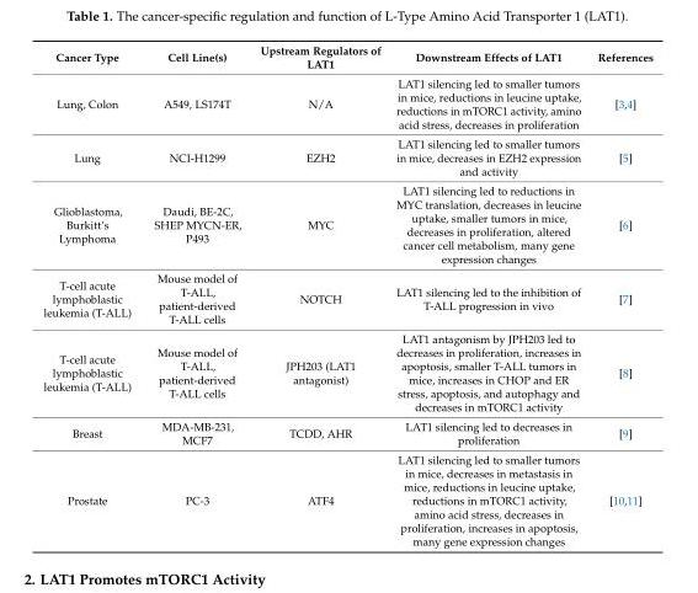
<table><thead><tr><td>Cancer Type</td><td>Cell Line(s)</td><td>Upstream Regulators of LAT1</td><td>Downstream Effects of LAT1</td><td>References</td></tr></thead><tbody><tr><td>Lung, Colon</td><td>A549, LS174T</td><td>N/A</td><td>LAT1 silencing led to smaller tumors in mice, reductions in leucine uptake, reductions in mTORC1 activity, amino acid stress, decreases in proliferation</td><td>[3,4]</td></tr><tr><td>Lung</td><td>NCI-H1299</td><td>EZH2</td><td>LAT1 silencing led to smaller tumors in mice, decreases in EZH2 expression and activity</td><td>[5]</td></tr><tr><td>Glioblastoma, Burkitt’s Lymphoma</td><td>Daudi, BE-2C, SHEP MYCN-ER, P493</td><td>MYC</td><td>LAT1 silencing led to reductions in MYC translation, decreases in leucine uptake, smaller tumors in mice, decreases in proliferation, altered cancer cell metabolism, many gene expression changes</td><td>[6]</td></tr><tr><td>T-cell acute lymphoblastic leukemia (T-ALL)</td><td>Mouse model of T-ALL, patient-derived T-ALL cells</td><td>NOTCH</td><td>LAT1 silencing led to the inhibition of T-ALL progression in vivo</td><td>[7]</td></tr><tr><td>T-cell acute lymphoblastic leukemia (T-ALL)</td><td>Mouse model of T-ALL, patient-derived T-ALL cells</td><td>JPH203 (LAT1 antagonist)</td><td>LAT1 antagonism by JPH203 led to decreases in proliferation, increases in apoptosis, smaller T-ALL tumors in mice, increases in CHOP and ER stress, apoptosis, and autophagy and decreases in mTORC1 activity</td><td>[8]</td></tr><tr><td>Breast</td><td>MDA-MB-231, MCF7</td><td>TCDD, AHR</td><td>LAT1 silencing led to decreases in proliferation</td><td>[9]</td></tr><tr><td>Prostate</td><td>PC-3</td><td>ATF4</td><td>LAT1 silencing led to smaller tumors in mice, decreases in metastasis in mice, reductions in leucine uptake, reductions in mTORC1 activity, amino acid stress, decreases in proliferation, increases in apoptosis, many gene expression changes</td><td>[10,11]</td></tr></tbody></table>